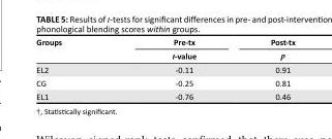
<table><thead><tr><td rowspan="2">Groups</td><td rowspan="2">Pre-tx t-value</td><td rowspan="2">Post-tx p</td></tr><tr></tr></thead><tbody><tr><td>EL2</td><td>-0.11</td><td>0.91</td></tr><tr><td>CG</td><td>-0.25</td><td>0.81</td></tr><tr><td>EL1</td><td>-0.76</td><td>0.46</td></tr></tbody></table>